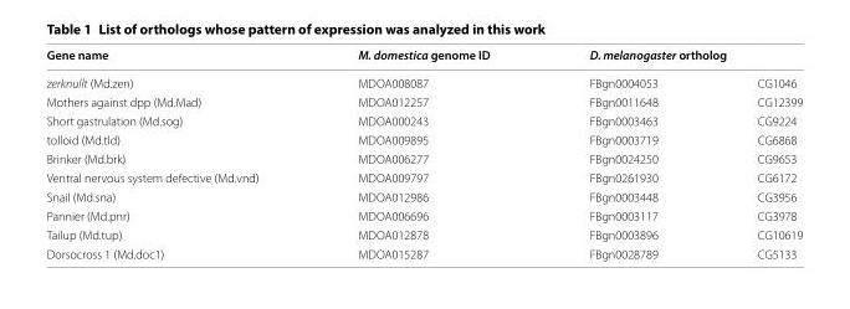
<table><thead><tr><td rowspan="2">Gene name zerknullt (Md.zen)</td><td rowspan="2">M. domestica genome ID MDOA008087</td><td colspan="2">D. melanogaster ortholog</td></tr><tr><td>FBgn0004053</td><td>CG1046</td></tr></thead><tbody><tr><td>Mothers against dpp (Md.Mad)</td><td>MDOA012257</td><td>FBgn0011648</td><td>CG12399</td></tr><tr><td>Short gastrulation (Md.sog)</td><td>MDOA000243</td><td>FBgn0003463</td><td>CG9224</td></tr><tr><td>tolloid (Md.tld)</td><td>MDOA009895</td><td>FBgn0003719</td><td>CG6868</td></tr><tr><td>Brinker (Md.brk)</td><td>MDOA006277</td><td>FBgn0024250</td><td>CG9653</td></tr><tr><td>Ventral nervous system defective (Md.vnd)</td><td>MDOA009797</td><td>FBgn0261930</td><td>CG6172</td></tr><tr><td>Snail (Md.sna)</td><td>MDOA012986</td><td>FBgn0003448</td><td>CG3956</td></tr><tr><td>Pannier (Md.pnr)</td><td>MDOA006696</td><td>FBgn0003117</td><td>CG3978</td></tr><tr><td>Tailup (Md.tup)</td><td>MDOA012878</td><td>FBgn0003896</td><td>CG10619</td></tr><tr><td>Dorsocross 1 (Md.doc1)</td><td>MDOA015287</td><td>FBgn0028789</td><td>CG5133</td></tr></tbody></table>